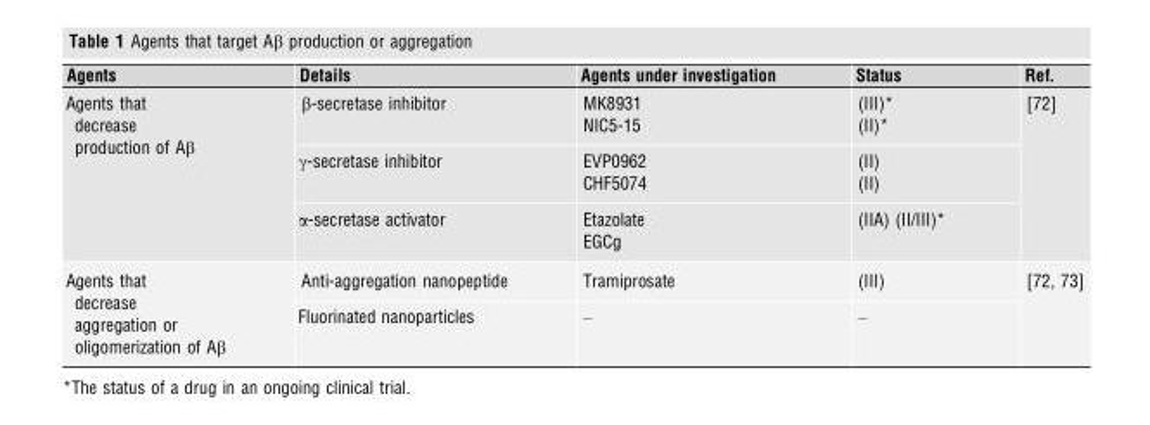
<table><thead><tr><td>Agents</td><td>Details</td><td>Agents under investigation</td><td>Status</td><td>Ref.</td></tr></thead><tbody><tr><td rowspan="3">Agents that decrease production of Aβ</td><td>β-secretase inhibitor</td><td>MK8931 NIC5-15</td><td>(III)* (II)*</td><td rowspan="3">[72]</td></tr><tr><td>γ-secretase inhibitor</td><td>EVP0962 CHF5074</td><td>(II) (II)</td></tr><tr><td>α-secretase activator</td><td>Etazolate EGCg</td><td>(IIA) (II/III)*</td></tr><tr><td rowspan="2">Agents that decrease aggregation or oligomerization of Aβ</td><td>Anti-aggregation nanopeptide</td><td>Tramiprosate</td><td>(III)</td><td rowspan="2">[72, 73]</td></tr><tr><td>Fluorinated nanoparticles</td><td>–</td><td>–</td></tr></tbody></table>